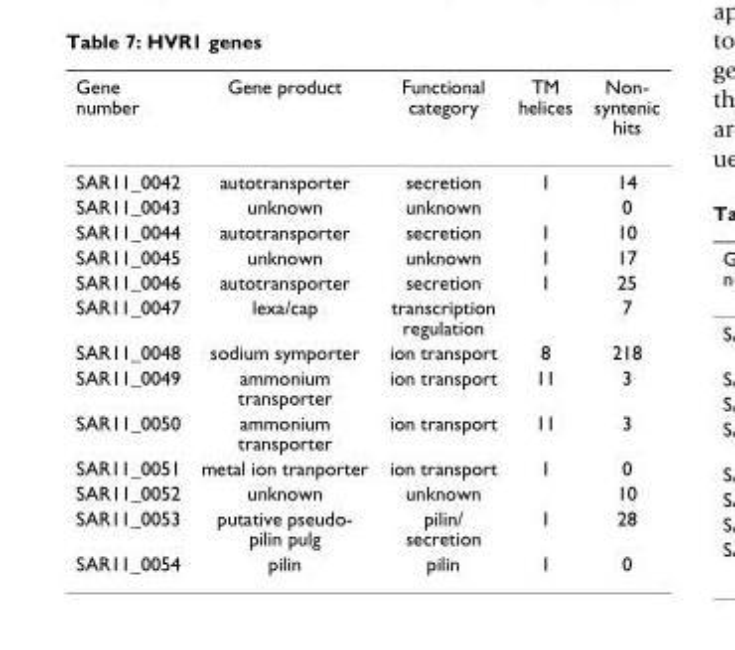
<table><thead><tr><td>Gene number</td><td>Gene product</td><td>Functional category</td><td>TM helices</td><td>Non- syntenic hits</td></tr></thead><tbody><tr><td>SAR11_0042</td><td>autotransporter</td><td>secretion</td><td>1</td><td>14</td></tr><tr><td>SAR11_0043</td><td>unknown</td><td>unknown</td><td></td><td>0</td></tr><tr><td>SAR11_0044</td><td>autotransporter</td><td>secretion</td><td>1</td><td>10</td></tr><tr><td>SAR11_0045</td><td>unknown</td><td>unknown</td><td>1</td><td>17</td></tr><tr><td>SAR11_0046</td><td>autotransporter</td><td>secretion</td><td>1</td><td>25</td></tr><tr><td>SAR11_0047</td><td>lexa/cap</td><td>transcription regulation</td><td></td><td>7</td></tr><tr><td>SAR11_0048</td><td>sodium symporter</td><td>ion transport</td><td>8</td><td>218</td></tr><tr><td>SAR11_0049</td><td>ammonium transporter</td><td>ion transport</td><td>11</td><td>3</td></tr><tr><td>SAR11_0050</td><td>ammonium transporter</td><td>ion transport</td><td>11</td><td>3</td></tr><tr><td>SAR11_0051</td><td>metal ion tranporter</td><td>ion transport</td><td>1</td><td>0</td></tr><tr><td>SAR11_0052</td><td>unknown</td><td>unknown</td><td></td><td>10</td></tr><tr><td>SAR11_0053</td><td>putative pseudo- pilin pulg</td><td>pilin/ secretion</td><td>1</td><td>28</td></tr><tr><td>SAR11_0054</td><td>pilin</td><td>pilin</td><td>1</td><td>0</td></tr></tbody></table>